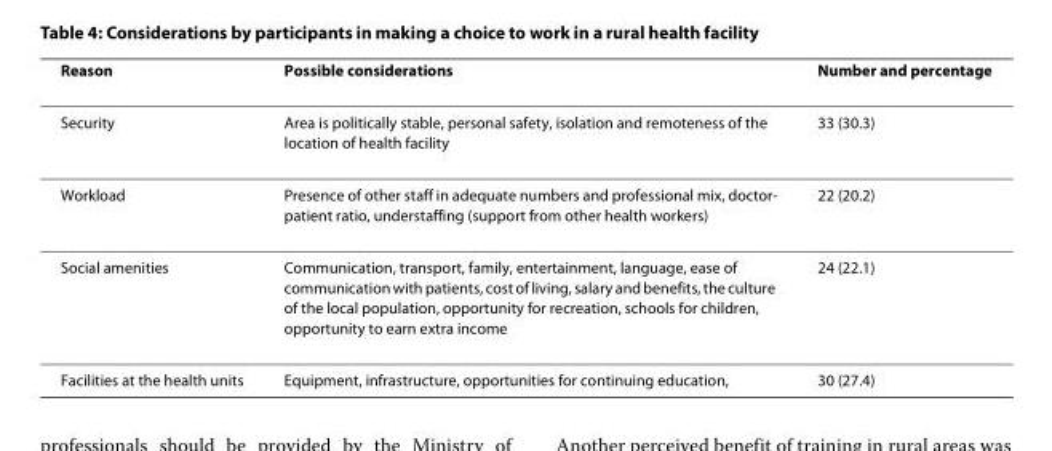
<table><thead><tr><td>Reason</td><td>Possible considerations</td><td>Number and percentage</td></tr></thead><tbody><tr><td>Security</td><td>Area is politically stable, personal safety, isolation and remoteness of the location of health facility</td><td>33 (30.3)</td></tr><tr><td>Workload</td><td>Presence of other staff in adequate numbers and professional mix, doctor- patient ratio, understaffing (support from other health workers)</td><td>22 (20.2)</td></tr><tr><td>Social amenities</td><td>Communication, transport, family, entertainment, language, ease of communication with patients, cost of living, salary and benefits, the culture of the local population, opportunity for recreation, schools for children, opportunity to earn extra income</td><td>24 (22.1)</td></tr><tr><td>Facilities at the health units</td><td>Equipment, infrastructure, opportunities for continuing education,</td><td>30 (27.4)</td></tr></tbody></table>